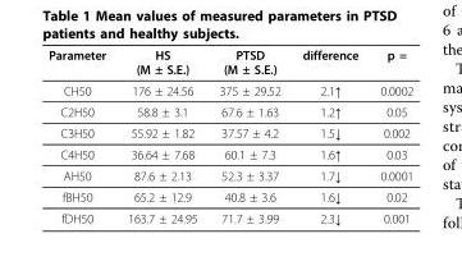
<table><thead><tr><td>Parameter</td><td>HS (M ± S.E.)</td><td>PTSD (M ± S.E.)</td><td>difference</td><td>p =</td></tr></thead><tbody><tr><td>CH50</td><td>176 ± 24.56</td><td>375 ± 29.52</td><td>2.1↑</td><td>0.0002</td></tr><tr><td>C2H50</td><td>58.8 ± 3.1</td><td>67.6 ± 1.63</td><td>1.2↑</td><td>0.05</td></tr><tr><td>C3H50</td><td>55.92 ± 1.82</td><td>37.57 ± 4.2</td><td>1.5↓</td><td>0.002</td></tr><tr><td>C4H50</td><td>36.64 ± 7.68</td><td>60.1 ± 7.3</td><td>1.6↑</td><td>0.03</td></tr><tr><td>AH50</td><td>87.6 ± 2.13</td><td>52.3 ± 3.37</td><td>1.7↓</td><td>0.0001</td></tr><tr><td>fBH50</td><td>65.2 ± 12.9</td><td>40.8 ± 3.6</td><td>1.6↓</td><td>0.02</td></tr><tr><td>fDH50</td><td>163.7 ± 24.95</td><td>71.7 ± 3.99</td><td>2.3↓</td><td>0.001</td></tr></tbody></table>